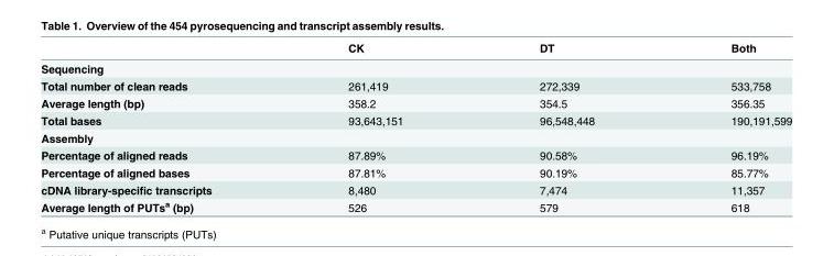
<table><thead><tr><td></td><td>CK</td><td>DT</td><td>Both</td></tr></thead><tbody><tr><td colspan="4">Sequencing</td></tr><tr><td>Total number of clean reads</td><td>261,419</td><td>272,339</td><td>533,758</td></tr><tr><td>Average length (bp)</td><td>358.2</td><td>354.5</td><td>356.35</td></tr><tr><td>Total bases</td><td>93,643,151</td><td>96,548,448</td><td>190,191,599</td></tr><tr><td colspan="4">Assembly</td></tr><tr><td>Percentage of aligned reads</td><td>87.89%</td><td>90.58%</td><td>96.19%</td></tr><tr><td>Percentage of aligned bases</td><td>87.81%</td><td>90.19%</td><td>85.77%</td></tr><tr><td>cDNA library-specific transcripts</td><td>8,480</td><td>7,474</td><td>11,357</td></tr><tr><td>Average length of PUTs<sup>a</sup> (bp)</td><td>526</td><td>579</td><td>618</td></tr></tbody></table>